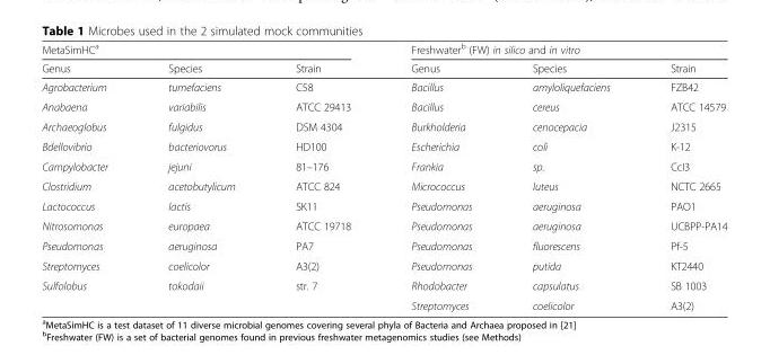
<table><thead><tr><td colspan="3">MetaSimHC<sup>a</sup></td><td colspan="3">Freshwater<sup>b</sup> (FW) in silico and in vitro</td></tr><tr><td>Genus</td><td>Species</td><td>Strain</td><td>Genus</td><td>Species</td><td>Strain</td></tr></thead><tbody><tr><td>Agrobacterium</td><td>tumefaciens</td><td>C58</td><td>Bacillus</td><td>amyloliquefaciens</td><td>FZB42</td></tr><tr><td>Anabaena</td><td>variabilis</td><td>ATCC 29413</td><td>Bacillus</td><td>cereus</td><td>ATCC 14579</td></tr><tr><td>Archaeoglobus</td><td>fulgidus</td><td>DSM 4304</td><td>Burkholderia</td><td>cenocepacia</td><td>J2315</td></tr><tr><td>Bdellovibrio</td><td>bacteriovorus</td><td>HD100</td><td>Escherichia</td><td>coli</td><td>K-12</td></tr><tr><td>Campylobacter</td><td>jejuni</td><td>81–176</td><td>Frankia</td><td>sp.</td><td>CcI3</td></tr><tr><td>Clostridium</td><td>acetobutylicum</td><td>ATCC 824</td><td>Micrococcus</td><td>luteus</td><td>NCTC 2665</td></tr><tr><td>Lactococcus</td><td>lactis</td><td>SK11</td><td>Pseudomonas</td><td>aeruginosa</td><td>PAO1</td></tr><tr><td>Nitrosomonas</td><td>europaea</td><td>ATCC 19718</td><td>Pseudomonas</td><td>aeruginosa</td><td>UCBPP-PA14</td></tr><tr><td>Pseudomonas</td><td>aeruginosa</td><td>PA7</td><td>Pseudomonas</td><td>fluorescens</td><td>Pf-5</td></tr><tr><td>Streptomyces</td><td>coelicolor</td><td>A3(2)</td><td>Pseudomonas</td><td>putida</td><td>KT2440</td></tr><tr><td rowspan="2">Sulfolobus</td><td>tokodaii</td><td>str. 7</td><td>Rhodobacter</td><td>capsulatus</td><td>SB 1003</td></tr><tr><td></td><td></td><td>Streptomyces</td><td>coelicolor</td><td>A3(2)</td></tr></tbody></table>